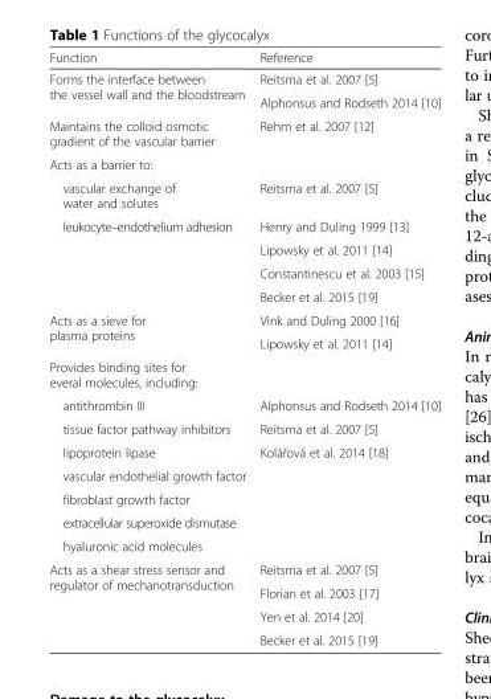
<table><thead><tr><td>Function</td><td>Reference</td></tr></thead><tbody><tr><td rowspan="2">Forms the interface between the vessel wall and the bloodstream</td><td>Reitsma et al. 2007 [5]</td></tr><tr><td>Alphonsus and Rodseth 2014 [10]</td></tr><tr><td>Maintains the colloid osmotic gradient of the vascular barrier</td><td>Rehm et al. 2007 [12]</td></tr><tr><td colspan="2">Acts as a barrier to:</td></tr><tr><td>vascular exchange of water and solutes</td><td>Reitsma et al. 2007 [5]</td></tr><tr><td rowspan="4">leukocyte–endothelium adhesion</td><td>Henry and Duling 1999 [13]</td></tr><tr><td>Lipowsky et al. 2011 [14]</td></tr><tr><td>Constantinescu et al. 2003 [15]</td></tr><tr><td>Becker et al. 2015 [19]</td></tr><tr><td rowspan="2">Acts as a sieve for plasma proteins</td><td>Vink and Duling 2000 [16]</td></tr><tr><td>Lipowsky et al. 2011 [14]</td></tr><tr><td colspan="2">Provides binding sites for everal molecules, including:</td></tr><tr><td>antithrombin III</td><td>Alphonsus and Rodseth 2014 [10]</td></tr><tr><td>tissue factor pathway inhibitors</td><td>Reitsma et al. 2007 [5]</td></tr><tr><td>lipoprotein lipase</td><td>Kolářová et al. 2014 [18]</td></tr><tr><td>vascular endothelial growth factor</td><td rowspan="4"></td></tr><tr><td>fibroblast growth factor</td></tr><tr><td>extracellular superoxide dismutase</td></tr><tr><td>hyaluronic acid molecules</td></tr><tr><td rowspan="4">Acts as a shear stress sensor and regulator of mechanotransduction</td><td>Reitsma et al. 2007 [5]</td></tr><tr><td>Florian et al. 2003 [17]</td></tr><tr><td>Yen et al. 2014 [20]</td></tr><tr><td>Becker et al. 2015 [19]</td></tr></tbody></table>